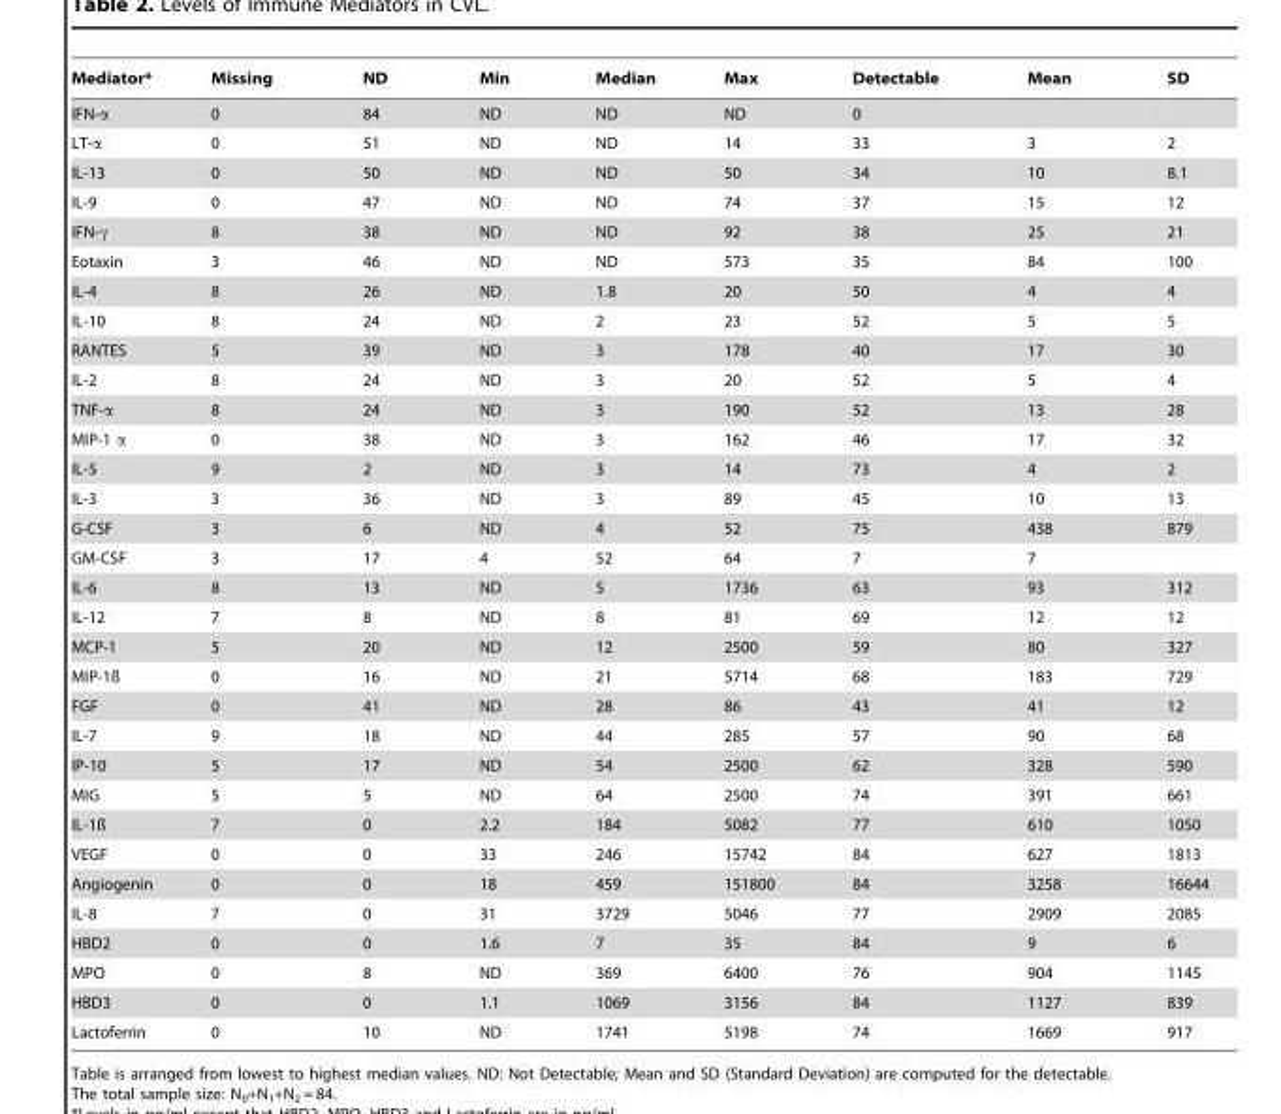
<table><thead><tr><td>Mediator*</td><td>Missing</td><td>ND</td><td>Min</td><td>Median</td><td>Max</td><td>Detectable</td><td>Mean</td><td>SD</td></tr></thead><tbody><tr><td>IFN-α</td><td>0</td><td>84</td><td>ND</td><td>ND</td><td>ND</td><td>0</td><td></td><td></td></tr><tr><td>LT-α</td><td>0</td><td>51</td><td>ND</td><td>ND</td><td>14</td><td>33</td><td>3</td><td>2</td></tr><tr><td>IL-13</td><td>0</td><td>50</td><td>ND</td><td>ND</td><td>50</td><td>34</td><td>10</td><td>8.1</td></tr><tr><td>IL-9</td><td>0</td><td>47</td><td>ND</td><td>ND</td><td>74</td><td>37</td><td>15</td><td>12</td></tr><tr><td>IFN-γ</td><td>8</td><td>38</td><td>ND</td><td>ND</td><td>92</td><td>38</td><td>25</td><td>21</td></tr><tr><td>Eotaxin</td><td>3</td><td>46</td><td>ND</td><td>ND</td><td>573</td><td>35</td><td>84</td><td>100</td></tr><tr><td>IL-4</td><td>8</td><td>26</td><td>ND</td><td>1.8</td><td>20</td><td>50</td><td>4</td><td>4</td></tr><tr><td>IL-10</td><td>8</td><td>24</td><td>ND</td><td>2</td><td>23</td><td>52</td><td>5</td><td>5</td></tr><tr><td>RANTES</td><td>5</td><td>39</td><td>ND</td><td>3</td><td>178</td><td>40</td><td>17</td><td>30</td></tr><tr><td>IL-2</td><td>8</td><td>24</td><td>ND</td><td>3</td><td>20</td><td>52</td><td>5</td><td>4</td></tr><tr><td>TNF-α</td><td>8</td><td>24</td><td>ND</td><td>3</td><td>190</td><td>52</td><td>13</td><td>28</td></tr><tr><td>MIP-1 α</td><td>0</td><td>38</td><td>ND</td><td>3</td><td>162</td><td>46</td><td>17</td><td>32</td></tr><tr><td>IL-5</td><td>9</td><td>2</td><td>ND</td><td>3</td><td>14</td><td>73</td><td>4</td><td>2</td></tr><tr><td>IL-3</td><td>3</td><td>36</td><td>ND</td><td>3</td><td>89</td><td>45</td><td>10</td><td>13</td></tr><tr><td>G-CSF</td><td>3</td><td>6</td><td>ND</td><td>4</td><td>52</td><td>75</td><td>438</td><td>879</td></tr><tr><td>GM-CSF</td><td>3</td><td>17</td><td>4</td><td>52</td><td>64</td><td>7</td><td>7</td><td></td></tr><tr><td>IL-6</td><td>8</td><td>13</td><td>ND</td><td>5</td><td>1736</td><td>63</td><td>93</td><td>312</td></tr><tr><td>IL-12</td><td>7</td><td>8</td><td>ND</td><td>8</td><td>81</td><td>69</td><td>12</td><td>12</td></tr><tr><td>MCP-1</td><td>5</td><td>20</td><td>ND</td><td>12</td><td>2500</td><td>59</td><td>80</td><td>327</td></tr><tr><td>MIP-1ß</td><td>0</td><td>16</td><td>ND</td><td>21</td><td>5714</td><td>68</td><td>183</td><td>729</td></tr><tr><td>FGF</td><td>0</td><td>41</td><td>ND</td><td>28</td><td>86</td><td>43</td><td>41</td><td>12</td></tr><tr><td>IL-7</td><td>9</td><td>18</td><td>ND</td><td>44</td><td>285</td><td>57</td><td>90</td><td>68</td></tr><tr><td>IP-10</td><td>5</td><td>17</td><td>ND</td><td>54</td><td>2500</td><td>62</td><td>328</td><td>590</td></tr><tr><td>MIG</td><td>5</td><td>5</td><td>ND</td><td>64</td><td>2500</td><td>74</td><td>391</td><td>661</td></tr><tr><td>IL-1ß</td><td>7</td><td>0</td><td>2.2</td><td>184</td><td>5082</td><td>77</td><td>610</td><td>1050</td></tr><tr><td>VEGF</td><td>0</td><td>0</td><td>33</td><td>246</td><td>15742</td><td>84</td><td>627</td><td>1813</td></tr><tr><td>Angiogenin</td><td>0</td><td>0</td><td>18</td><td>459</td><td>151800</td><td>84</td><td>3258</td><td>16644</td></tr><tr><td>IL-8</td><td>7</td><td>0</td><td>31</td><td>3729</td><td>5046</td><td>77</td><td>2909</td><td>2085</td></tr><tr><td>HBD2</td><td>0</td><td>0</td><td>1.6</td><td>7</td><td>35</td><td>84</td><td>9</td><td>6</td></tr><tr><td>MPO</td><td>0</td><td>8</td><td>ND</td><td>369</td><td>6400</td><td>76</td><td>904</td><td>1145</td></tr><tr><td>HBD3</td><td>0</td><td>0</td><td>1.1</td><td>1069</td><td>3156</td><td>84</td><td>1127</td><td>839</td></tr><tr><td>Lactoferrin</td><td>0</td><td>10</td><td>ND</td><td>1741</td><td>5198</td><td>74</td><td>1669</td><td>917</td></tr></tbody></table>